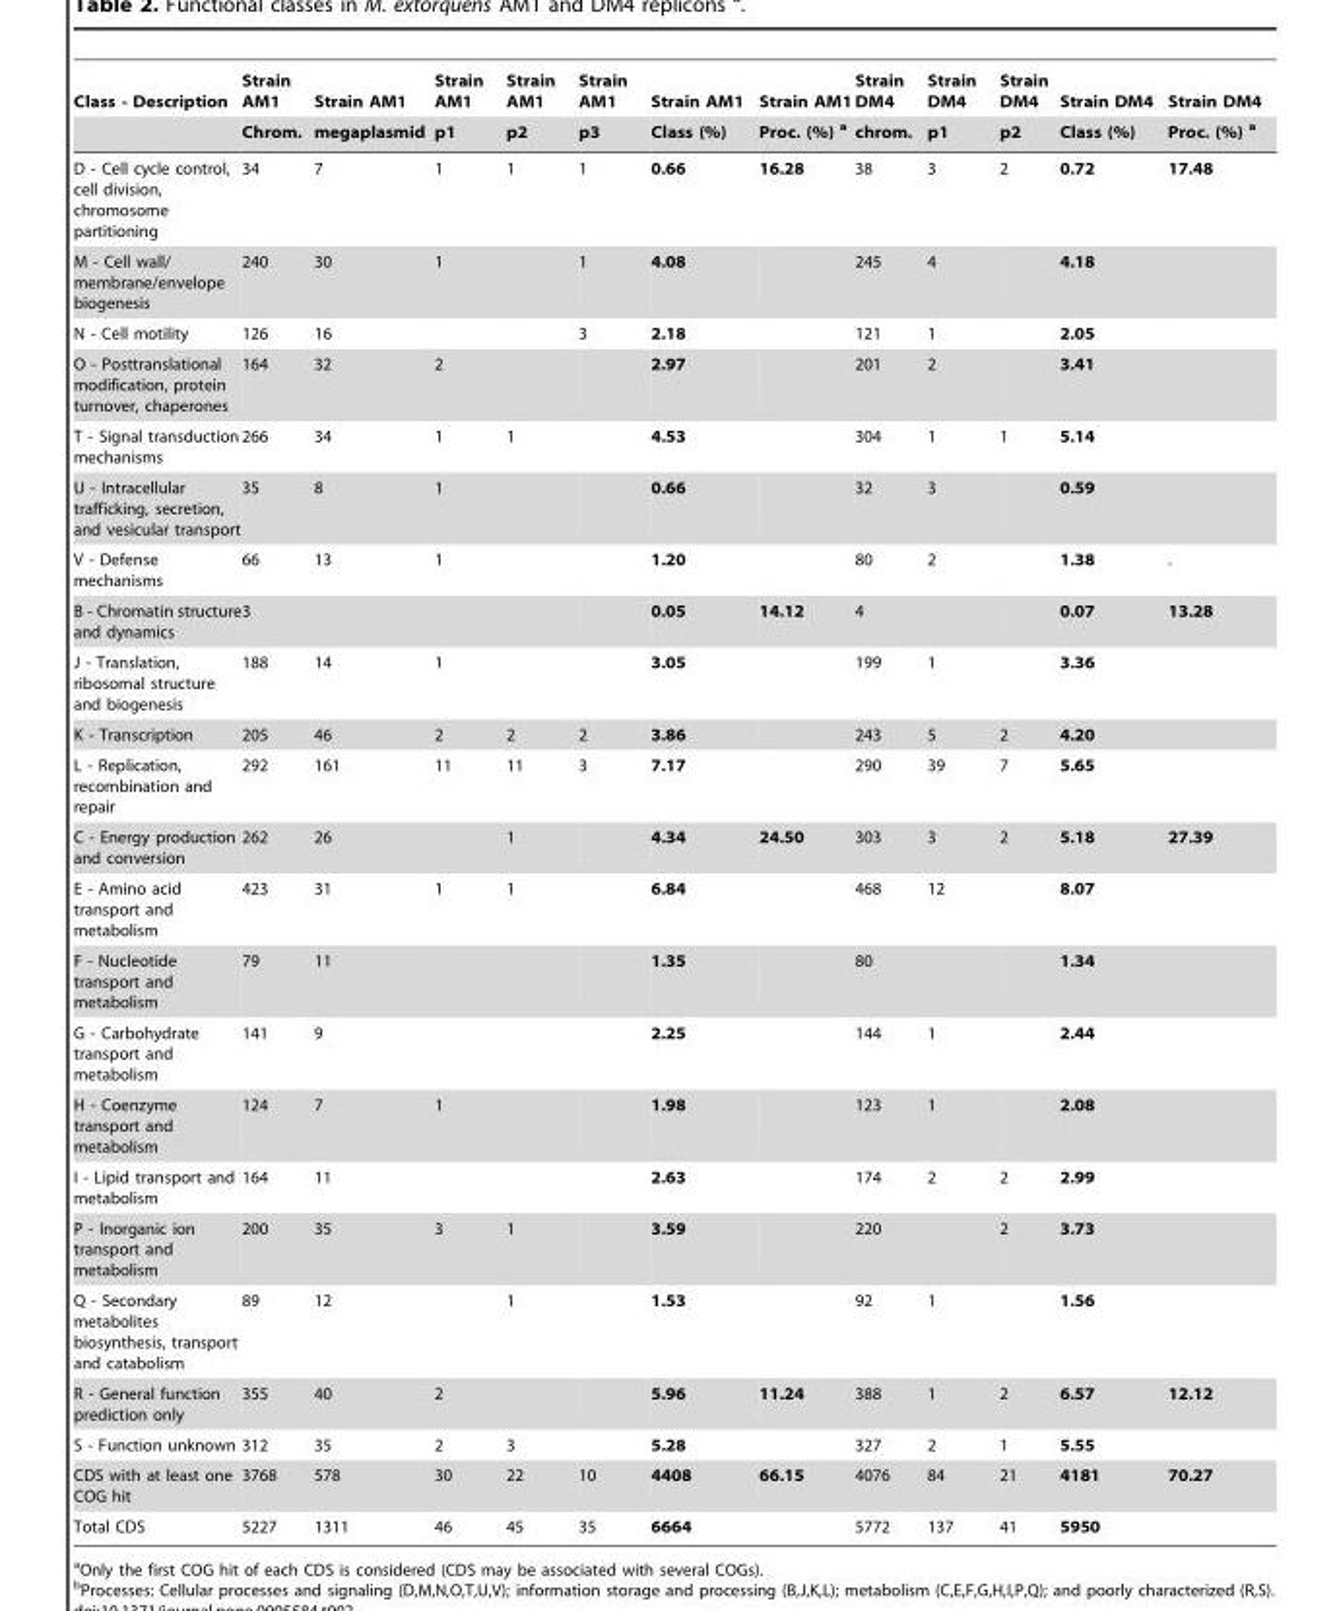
<table><thead><tr><td rowspan="2">Class - Description</td><td rowspan="2">Strain AM1 Chrom.</td><td rowspan="2">Strain AM1 megaplasmid</td><td rowspan="2">Strain AM1 p1</td><td rowspan="2">Strain AM1 p2</td><td rowspan="2">Strain AM1 p3</td><td rowspan="2">Strain AM1 Class (%)</td><td rowspan="2">Strain AM1 Proc. (%) a</td><td rowspan="2">Strain DM4 chrom.</td><td rowspan="2">Strain DM4 p1</td><td rowspan="2">Strain DM4 p2</td><td rowspan="2">Strain DM4 Class (%)</td><td rowspan="2">Strain DM4 Proc. (%) a</td></tr><tr></tr></thead><tbody><tr><td>D - Cell cycle control, cell division, chromosome partitioning</td><td>34</td><td>7</td><td>1</td><td>1</td><td>1</td><td>0.66</td><td>16.28</td><td>38</td><td>3</td><td>2</td><td>0.72</td><td>17.48</td></tr><tr><td>M - Cell wall/ membrane/envelope biogenesis</td><td>240</td><td>30</td><td>1</td><td></td><td>1</td><td>4.08</td><td></td><td>245</td><td>4</td><td></td><td>4.18</td><td></td></tr><tr><td>N - Cell motility</td><td>126</td><td>16</td><td></td><td></td><td>3</td><td>2.18</td><td></td><td>121</td><td>1</td><td></td><td>2.05</td><td></td></tr><tr><td>O - Posttranslational modification, protein turnover, chaperones</td><td>164</td><td>32</td><td>2</td><td></td><td></td><td>2.97</td><td></td><td>201</td><td>2</td><td></td><td>3.41</td><td></td></tr><tr><td>T - Signal transduction mechanisms</td><td>266</td><td>34</td><td>1</td><td>1</td><td></td><td>4.53</td><td></td><td>304</td><td>1</td><td>1</td><td>5.14</td><td></td></tr><tr><td>U - Intracellular trafficking, secretion, and vesicular transport</td><td>35</td><td>8</td><td>1</td><td></td><td></td><td>0.66</td><td></td><td>32</td><td>3</td><td></td><td>0.59</td><td></td></tr><tr><td>V - Defense mechanisms</td><td>66</td><td>13</td><td>1</td><td></td><td></td><td>1.20</td><td></td><td>80</td><td>2</td><td></td><td>1.38</td><td>.</td></tr><tr><td>B - Chromatin structure and dynamics</td><td>3</td><td></td><td></td><td></td><td></td><td>0.05</td><td>14.12</td><td>4</td><td></td><td></td><td>0.07</td><td>13.28</td></tr><tr><td>J - Translation, ribosomal structure and biogenesis</td><td>188</td><td>14</td><td>1</td><td></td><td></td><td>3.05</td><td></td><td>199</td><td>1</td><td></td><td>3.36</td><td></td></tr><tr><td>K - Transcription</td><td>205</td><td>46</td><td>2</td><td>2</td><td>2</td><td>3.86</td><td></td><td>243</td><td>5</td><td>2</td><td>4.20</td><td></td></tr><tr><td>L - Replication, recombination and repair</td><td>292</td><td>161</td><td>11</td><td>11</td><td>3</td><td>7.17</td><td></td><td>290</td><td>39</td><td>7</td><td>5.65</td><td></td></tr><tr><td>C - Energy production and conversion</td><td>262</td><td>26</td><td></td><td>1</td><td></td><td>4.34</td><td>24.50</td><td>303</td><td>3</td><td>2</td><td>5.18</td><td>27.39</td></tr><tr><td>E - Amino acid transport and metabolism</td><td>423</td><td>31</td><td>1</td><td>1</td><td></td><td>6.84</td><td></td><td>468</td><td>12</td><td></td><td>8.07</td><td></td></tr><tr><td>F - Nucleotide transport and metabolism</td><td>79</td><td>11</td><td></td><td></td><td></td><td>1.35</td><td></td><td>80</td><td></td><td></td><td>1.34</td><td></td></tr><tr><td>G - Carbohydrate transport and metabolism</td><td>141</td><td>9</td><td></td><td></td><td></td><td>2.25</td><td></td><td>144</td><td>1</td><td></td><td>2.44</td><td></td></tr><tr><td>H - Coenzyme transport and metabolism</td><td>124</td><td>7</td><td>1</td><td></td><td></td><td>1.98</td><td></td><td>123</td><td>1</td><td></td><td>2.08</td><td></td></tr><tr><td>I - Lipid transport and metabolism</td><td>164</td><td>11</td><td></td><td></td><td></td><td>2.63</td><td></td><td>174</td><td>2</td><td>2</td><td>2.99</td><td></td></tr><tr><td>P - Inorganic ion transport and metabolism</td><td>200</td><td>35</td><td>3</td><td>1</td><td></td><td>3.59</td><td></td><td>220</td><td></td><td>2</td><td>3.73</td><td></td></tr><tr><td>Q - Secondary metabolites biosynthesis, transport and catabolism</td><td>89</td><td>12</td><td></td><td>1</td><td></td><td>1.53</td><td></td><td>92</td><td>1</td><td></td><td>1.56</td><td></td></tr><tr><td>R - General function prediction only</td><td>355</td><td>40</td><td>2</td><td></td><td></td><td>5.96</td><td>11.24</td><td>388</td><td>1</td><td>2</td><td>6.57</td><td>12.12</td></tr><tr><td>S - Function unknown</td><td>312</td><td>35</td><td>2</td><td>3</td><td></td><td>5.28</td><td></td><td>327</td><td>2</td><td>1</td><td>5.55</td><td></td></tr><tr><td>CDS with at least one COG hit</td><td>3768</td><td>578</td><td>30</td><td>22</td><td>10</td><td>4408</td><td>66.15</td><td>4076</td><td>84</td><td>21</td><td>4181</td><td>70.27</td></tr><tr><td>Total CDS</td><td>5227</td><td>1311</td><td>46</td><td>45</td><td>35</td><td>6664</td><td></td><td>5772</td><td>137</td><td>41</td><td>5950</td><td></td></tr></tbody></table>